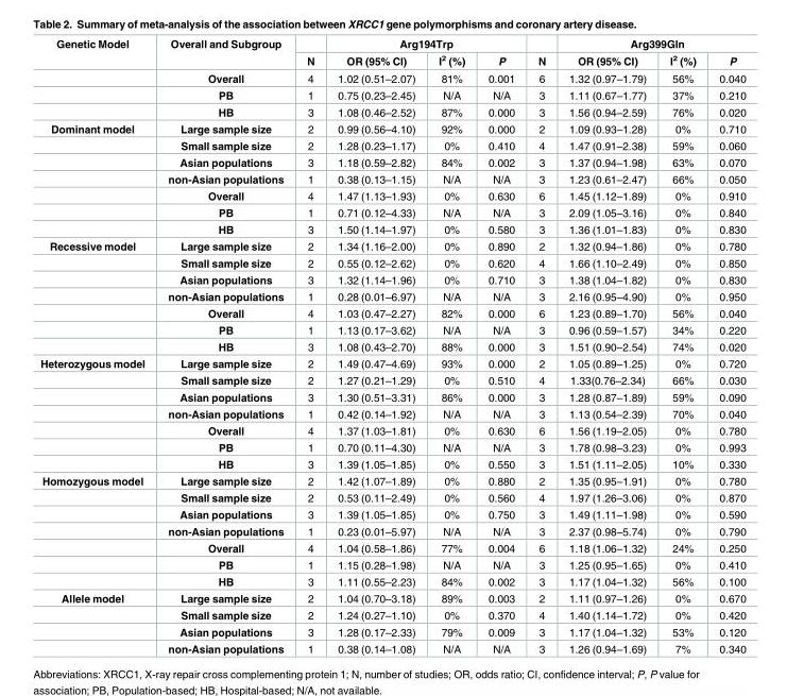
<table><thead><tr><td rowspan="2">Genetic Model</td><td rowspan="2">Overall and Subgroup</td><td rowspan="2">N</td><td colspan="3">Arg194Trp</td><td rowspan="2">N</td><td colspan="3">Arg399Gln</td></tr><tr><td>OR (95% CI)</td><td>I<sup>2</sup> (%)</td><td>P</td><td>OR (95% CI)</td><td>I<sup>2</sup> (%)</td><td>P</td></tr></thead><tbody><tr><td></td><td>Overall</td><td>4</td><td>1.02 (0.51–2.07)</td><td>81%</td><td>0.001</td><td>6</td><td>1.32 (0.97–1.79)</td><td>56%</td><td>0.040</td></tr><tr><td></td><td>PB</td><td>1</td><td>0.75 (0.23–2.45)</td><td>N/A</td><td>N/A</td><td>3</td><td>1.11 (0.67–1.77)</td><td>37%</td><td>0.210</td></tr><tr><td></td><td>HB</td><td>3</td><td>1.08 (0.46–2.52)</td><td>87%</td><td>0.000</td><td>3</td><td>1.56 (0.94–2.59)</td><td>76%</td><td>0.020</td></tr><tr><td rowspan="7">Dominant model</td><td>Large sample size</td><td>2</td><td>0.99 (0.56–4.10)</td><td>92%</td><td>0.000</td><td>2</td><td>1.09 (0.93–1.28)</td><td>0%</td><td>0.710</td></tr><tr><td>Small sample size</td><td>2</td><td>1.28 (0.23–1.17)</td><td>0%</td><td>0.410</td><td>4</td><td>1.47 (0.91–2.38)</td><td>59%</td><td>0.060</td></tr><tr><td>Asian populations</td><td>3</td><td>1.18 (0.59–2.82)</td><td>84%</td><td>0.002</td><td>3</td><td>1.37 (0.94–1.98)</td><td>63%</td><td>0.070</td></tr><tr><td>non-Asian populations</td><td>1</td><td>0.38 (0.13–1.15)</td><td>N/A</td><td>N/A</td><td>3</td><td>1.23 (0.61–2.47)</td><td>66%</td><td>0.050</td></tr><tr><td>Overall</td><td>4</td><td>1.47 (1.13–1.93)</td><td>0%</td><td>0.630</td><td>6</td><td>1.45 (1.12–1.89)</td><td>0%</td><td>0.910</td></tr><tr><td>PB</td><td>1</td><td>0.71 (0.12–4.33)</td><td>N/A</td><td>N/A</td><td>3</td><td>2.09 (1.05–3.16)</td><td>0%</td><td>0.840</td></tr><tr><td>HB</td><td>3</td><td>1.50 (1.14–1.97)</td><td>0%</td><td>0.580</td><td>3</td><td>1.36 (1.01–1.83)</td><td>0%</td><td>0.830</td></tr><tr><td rowspan="7">Recessive model</td><td>Large sample size</td><td>2</td><td>1.34 (1.16–2.00)</td><td>0%</td><td>0.890</td><td>2</td><td>1.32 (0.94–1.86)</td><td>0%</td><td>0.780</td></tr><tr><td>Small sample size</td><td>2</td><td>0.55 (0.12–2.62)</td><td>0%</td><td>0.620</td><td>4</td><td>1.66 (1.10–2.49)</td><td>0%</td><td>0.850</td></tr><tr><td>Asian populations</td><td>3</td><td>1.32 (1.14–1.96)</td><td>0%</td><td>0.710</td><td>3</td><td>1.38 (1.04–1.82)</td><td>0%</td><td>0.830</td></tr><tr><td>non-Asian populations</td><td>1</td><td>0.28 (0.01–6.97)</td><td>N/A</td><td>N/A</td><td>3</td><td>2.16 (0.95–4.90)</td><td>0%</td><td>0.950</td></tr><tr><td>Overall</td><td>4</td><td>1.03 (0.47–2.27)</td><td>82%</td><td>0.000</td><td>6</td><td>1.23 (0.89–1.70)</td><td>56%</td><td>0.040</td></tr><tr><td>PB</td><td>1</td><td>1.13 (0.17–3.62)</td><td>N/A</td><td>N/A</td><td>3</td><td>0.96 (0.59–1.57)</td><td>34%</td><td>0.220</td></tr><tr><td>HB</td><td>3</td><td>1.08 (0.43–2.70)</td><td>88%</td><td>0.000</td><td>3</td><td>1.51 (0.90–2.54)</td><td>74%</td><td>0.020</td></tr><tr><td rowspan="7">Heterozygous model</td><td>Large sample size</td><td>2</td><td>1.49 (0.47–4.69)</td><td>93%</td><td>0.000</td><td>2</td><td>1.05 (0.89–1.25)</td><td>0%</td><td>0.720</td></tr><tr><td>Small sample size</td><td>2</td><td>1.27 (0.21–1.29)</td><td>0%</td><td>0.510</td><td>4</td><td>1.33(0.76–2.34)</td><td>66%</td><td>0.030</td></tr><tr><td>Asian populations</td><td>3</td><td>1.30 (0.51–3.31)</td><td>86%</td><td>0.000</td><td>3</td><td>1.28 (0.87–1.89)</td><td>59%</td><td>0.090</td></tr><tr><td>non-Asian populations</td><td>1</td><td>0.42 (0.14–1.92)</td><td>N/A</td><td>N/A</td><td>3</td><td>1.13 (0.54–2.39)</td><td>70%</td><td>0.040</td></tr><tr><td>Overall</td><td>4</td><td>1.37 (1.03–1.81)</td><td>0%</td><td>0.630</td><td>6</td><td>1.56 (1.19–2.05)</td><td>0%</td><td>0.780</td></tr><tr><td>PB</td><td>1</td><td>0.70 (0.11–4.30)</td><td>N/A</td><td>N/A</td><td>3</td><td>1.78 (0.98–3.23)</td><td>0%</td><td>0.993</td></tr><tr><td>HB</td><td>3</td><td>1.39 (1.05–1.85)</td><td>0%</td><td>0.550</td><td>3</td><td>1.51 (1.11–2.05)</td><td>10%</td><td>0.330</td></tr><tr><td rowspan="7">Homozygous model</td><td>Large sample size</td><td>2</td><td>1.42 (1.07–1.89)</td><td>0%</td><td>0.880</td><td>2</td><td>1.35 (0.95–1.91)</td><td>0%</td><td>0.780</td></tr><tr><td>Small sample size</td><td>2</td><td>0.53 (0.11–2.49)</td><td>0%</td><td>0.560</td><td>4</td><td>1.97 (1.26–3.06)</td><td>0%</td><td>0.870</td></tr><tr><td>Asian populations</td><td>3</td><td>1.39 (1.05–1.85)</td><td>0%</td><td>0.750</td><td>3</td><td>1.49 (1.11–1.98)</td><td>0%</td><td>0.590</td></tr><tr><td>non-Asian populations</td><td>1</td><td>0.23 (0.01–5.97)</td><td>N/A</td><td>N/A</td><td>3</td><td>2.37 (0.98–5.74)</td><td>0%</td><td>0.790</td></tr><tr><td>Overall</td><td>4</td><td>1.04 (0.58–1.86)</td><td>77%</td><td>0.004</td><td>6</td><td>1.18 (1.06–1.32)</td><td>24%</td><td>0.250</td></tr><tr><td>PB</td><td>1</td><td>1.15 (0.28–1.98)</td><td>N/A</td><td>N/A</td><td>3</td><td>1.25 (0.95–1.65)</td><td>0%</td><td>0.410</td></tr><tr><td>HB</td><td>3</td><td>1.11 (0.55–2.23)</td><td>84%</td><td>0.002</td><td>3</td><td>1.17 (1.04–1.32)</td><td>56%</td><td>0.100</td></tr><tr><td rowspan="4">Allele model</td><td>Large sample size</td><td>2</td><td>1.04 (0.70–3.18)</td><td>89%</td><td>0.003</td><td>2</td><td>1.11 (0.97–1.26)</td><td>0%</td><td>0.670</td></tr><tr><td>Small sample size</td><td>2</td><td>1.24 (0.27–1.10)</td><td>0%</td><td>0.370</td><td>4</td><td>1.40 (1.14–1.72)</td><td>0%</td><td>0.420</td></tr><tr><td>Asian populations</td><td>3</td><td>1.28 (0.17–2.33)</td><td>79%</td><td>0.009</td><td>3</td><td>1.17 (1.04–1.32)</td><td>53%</td><td>0.120</td></tr><tr><td>non-Asian populations</td><td>1</td><td>0.38 (0.14–1.08)</td><td>N/A</td><td>N/A</td><td>3</td><td>1.26 (0.94–1.69)</td><td>7%</td><td>0.340</td></tr></tbody></table>